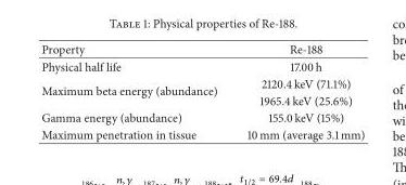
<table><thead><tr><td>Property</td><td>Re-188</td></tr></thead><tbody><tr><td>Physical half life</td><td>17.00 h</td></tr><tr><td rowspan="2">Maximum beta energy (abundance)</td><td>2120.4 keV (71.1%)</td></tr><tr><td>1965.4 keV (25.6%)</td></tr><tr><td>Gamma energy (abundance)</td><td>155.0 keV (15%)</td></tr><tr><td>Maximum penetration in tissue</td><td>10 mm (average 3.1 mm)</td></tr></tbody></table>